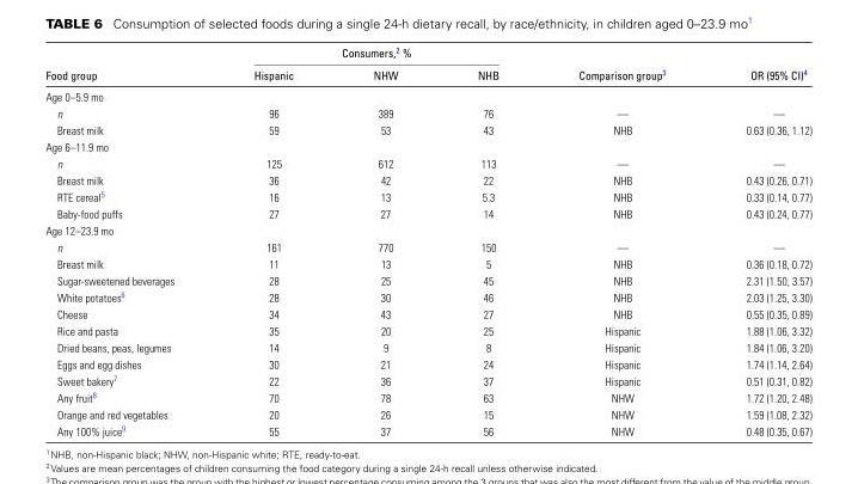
<table><thead><tr><td rowspan="2">Food group</td><td colspan="3">Consumers,<sup>2</sup> %</td><td rowspan="2">Comparison group<sup>3</sup></td><td rowspan="2">OR (95% CI)<sup>4</sup></td></tr><tr><td>Hispanic</td><td>NHW</td><td>NHB</td></tr></thead><tbody><tr><td colspan="6">Age 0–5.9 mo</td></tr><tr><td>n</td><td>96</td><td>389</td><td>76</td><td>—</td><td>—</td></tr><tr><td>Breast milk</td><td>59</td><td>53</td><td>43</td><td>NHB</td><td>0.63 (0.36, 1.12)</td></tr><tr><td colspan="6">Age 6–11.9 mo</td></tr><tr><td>n</td><td>125</td><td>612</td><td>113</td><td>—</td><td>—</td></tr><tr><td>Breast milk</td><td>36</td><td>42</td><td>22</td><td>NHB</td><td>0.43 (0.26, 0.71)</td></tr><tr><td>RTE cereal<sup>5</sup></td><td>16</td><td>13</td><td>5.3</td><td>NHB</td><td>0.33 (0.14, 0.77)</td></tr><tr><td>Baby-food puffs</td><td>27</td><td>27</td><td>14</td><td>NHB</td><td>0.43 (0.24, 0.77)</td></tr><tr><td colspan="6">Age 12–23.9 mo</td></tr><tr><td>n</td><td>161</td><td>770</td><td>150</td><td>—</td><td>—</td></tr><tr><td>Breast milk</td><td>11</td><td>13</td><td>5</td><td>NHB</td><td>0.36 (0.18, 0.72)</td></tr><tr><td>Sugar-sweetened beverages</td><td>28</td><td>25</td><td>45</td><td>NHB</td><td>2.31 (1.50, 3.57)</td></tr><tr><td>White potatoes<sup>6</sup></td><td>28</td><td>30</td><td>46</td><td>NHB</td><td>2.03 (1.25, 3.30)</td></tr><tr><td>Cheese</td><td>34</td><td>43</td><td>27</td><td>NHB</td><td>0.55 (0.35, 0.89)</td></tr><tr><td>Rice and pasta</td><td>35</td><td>20</td><td>25</td><td>Hispanic</td><td>1.88 (1.06, 3.32)</td></tr><tr><td>Dried beans, peas, legumes</td><td>14</td><td>9</td><td>8</td><td>Hispanic</td><td>1.84 (1.06, 3.20)</td></tr><tr><td>Eggs and egg dishes</td><td>30</td><td>21</td><td>24</td><td>Hispanic</td><td>1.74 (1.14, 2.64)</td></tr><tr><td>Sweet bakery<sup>7</sup></td><td>22</td><td>36</td><td>37</td><td>Hispanic</td><td>0.51 (0.31, 0.82)</td></tr><tr><td>Any fruit<sup>8</sup></td><td>70</td><td>78</td><td>63</td><td>NHW</td><td>1.72 (1.20, 2.48)</td></tr><tr><td>Orange and red vegetables</td><td>20</td><td>26</td><td>15</td><td>NHW</td><td>1.59 (1.08, 2.32)</td></tr><tr><td>Any 100% juice<sup>9</sup></td><td>55</td><td>37</td><td>56</td><td>NHW</td><td>0.48 (0.35, 0.67)</td></tr></tbody></table>